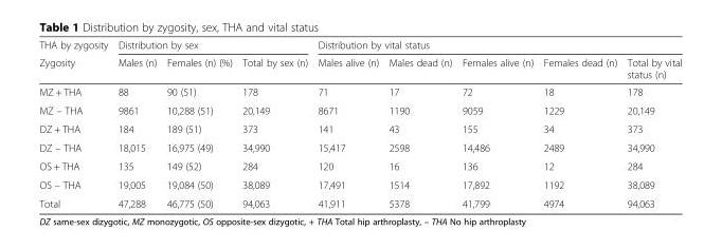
<table><thead><tr><td rowspan="2">THA by zygosity Zygosity</td><td colspan="3">Distribution by sex</td><td colspan="5">Distribution by vital status</td></tr><tr><td>Males (n)</td><td>Females (n) (%)</td><td>Total by sex (n)</td><td>Males alive (n)</td><td>Males dead (n)</td><td>Females alive (n)</td><td>Females dead (n)</td><td>Total by vital status (n)</td></tr></thead><tbody><tr><td>MZ + THA</td><td>88</td><td>90 (51)</td><td>178</td><td>71</td><td>17</td><td>72</td><td>18</td><td>178</td></tr><tr><td>MZ – THA</td><td>9861</td><td>10,288 (51)</td><td>20,149</td><td>8671</td><td>1190</td><td>9059</td><td>1229</td><td>20,149</td></tr><tr><td>DZ + THA</td><td>184</td><td>189 (51)</td><td>373</td><td>141</td><td>43</td><td>155</td><td>34</td><td>373</td></tr><tr><td>DZ – THA</td><td>18,015</td><td>16,975 (49)</td><td>34,990</td><td>15,417</td><td>2598</td><td>14,486</td><td>2489</td><td>34,990</td></tr><tr><td>OS + THA</td><td>135</td><td>149 (52)</td><td>284</td><td>120</td><td>16</td><td>136</td><td>12</td><td>284</td></tr><tr><td>OS – THA</td><td>19,005</td><td>19,084 (50)</td><td>38,089</td><td>17,491</td><td>1514</td><td>17,892</td><td>1192</td><td>38,089</td></tr><tr><td>Total</td><td>47,288</td><td>46,775 (50)</td><td>94,063</td><td>41,911</td><td>5378</td><td>41,799</td><td>4974</td><td>94,063</td></tr></tbody></table>